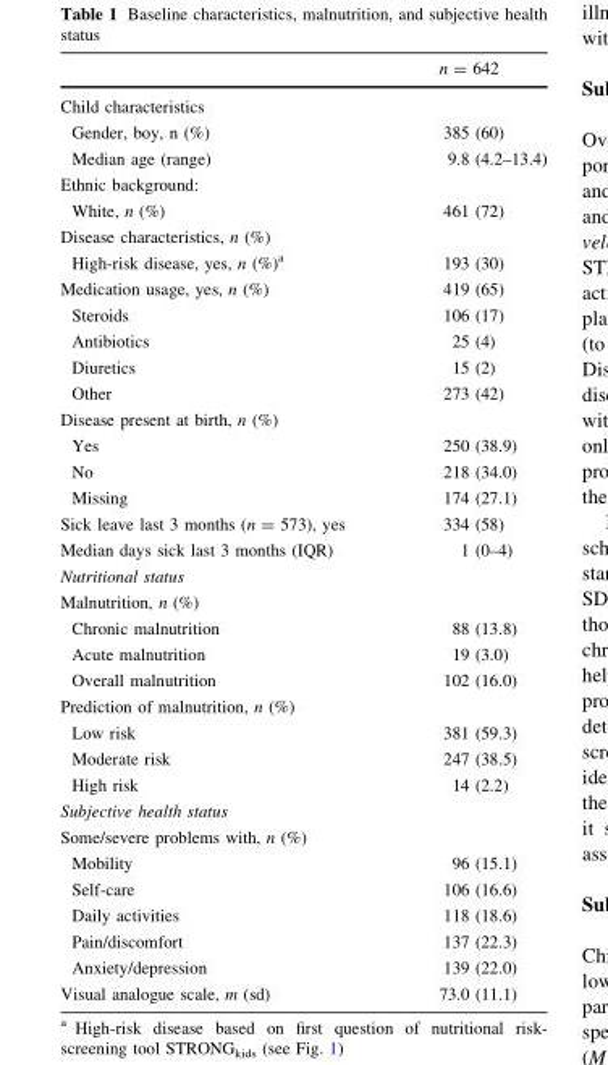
<table><thead><tr><td></td><td>n = 642</td></tr></thead><tbody><tr><td colspan="2">Child characteristics</td></tr><tr><td>Gender, boy, n (%)</td><td>385 (60)</td></tr><tr><td>Median age (range)</td><td>9.8 (4.2–13.4)</td></tr><tr><td colspan="2">Ethnic background:</td></tr><tr><td>White, n (%)</td><td>461 (72)</td></tr><tr><td colspan="2">Disease characteristics, n (%)</td></tr><tr><td>High-risk disease, yes, n (%)<sup>a</sup></td><td>193 (30)</td></tr><tr><td>Medication usage, yes, n (%)</td><td>419 (65)</td></tr><tr><td>Steroids</td><td>106 (17)</td></tr><tr><td>Antibiotics</td><td>25 (4)</td></tr><tr><td>Diuretics</td><td>15 (2)</td></tr><tr><td>Other</td><td>273 (42)</td></tr><tr><td colspan="2">Disease present at birth, n (%)</td></tr><tr><td>Yes</td><td>250 (38.9)</td></tr><tr><td>No</td><td>218 (34.0)</td></tr><tr><td>Missing</td><td>174 (27.1)</td></tr><tr><td>Sick leave last 3 months (n = 573), yes</td><td>334 (58)</td></tr><tr><td>Median days sick last 3 months (IQR)</td><td>1 (0–4)</td></tr><tr><td colspan="2">Nutritional status</td></tr><tr><td colspan="2">Malnutrition, n (%)</td></tr><tr><td>Chronic malnutrition</td><td>88 (13.8)</td></tr><tr><td>Acute malnutrition</td><td>19 (3.0)</td></tr><tr><td>Overall malnutrition</td><td>102 (16.0)</td></tr><tr><td colspan="2">Prediction of malnutrition, n (%)</td></tr><tr><td>Low risk</td><td>381 (59.3)</td></tr><tr><td>Moderate risk</td><td>247 (38.5)</td></tr><tr><td>High risk</td><td>14 (2.2)</td></tr><tr><td colspan="2">Subjective health status</td></tr><tr><td colspan="2">Some/severe problems with, n (%)</td></tr><tr><td>Mobility</td><td>96 (15.1)</td></tr><tr><td>Self-care</td><td>106 (16.6)</td></tr><tr><td>Daily activities</td><td>118 (18.6)</td></tr><tr><td>Pain/discomfort</td><td>137 (22.3)</td></tr><tr><td>Anxiety/depression</td><td>139 (22.0)</td></tr><tr><td>Visual analogue scale, m (sd)</td><td>73.0 (11.1)</td></tr></tbody></table>